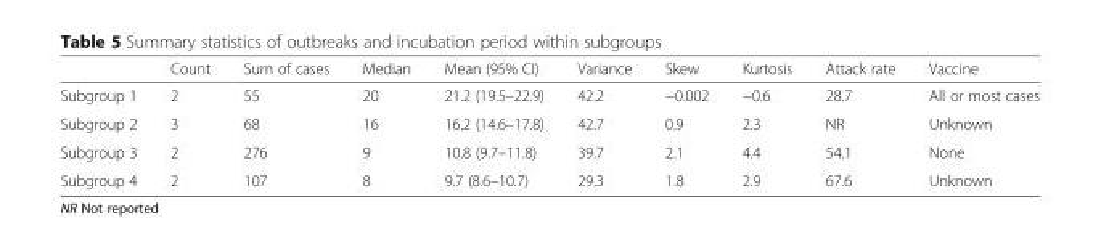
<table><thead><tr><td></td><td>Count</td><td>Sum of cases</td><td>Median</td><td>Mean (95% CI)</td><td>Variance</td><td>Skew</td><td>Kurtosis</td><td>Attack rate</td><td>Vaccine</td></tr></thead><tbody><tr><td>Subgroup 1</td><td>2</td><td>55</td><td>20</td><td>21.2 (19.5–22.9)</td><td>42.2</td><td>−0.002</td><td>−0.6</td><td>28.7</td><td>All or most cases</td></tr><tr><td>Subgroup 2</td><td>3</td><td>68</td><td>16</td><td>16.2 (14.6–17.8)</td><td>42.7</td><td>0.9</td><td>2.3</td><td>NR</td><td>Unknown</td></tr><tr><td>Subgroup 3</td><td>2</td><td>276</td><td>9</td><td>10.8 (9.7–11.8)</td><td>39.7</td><td>2.1</td><td>4.4</td><td>54.1</td><td>None</td></tr><tr><td>Subgroup 4</td><td>2</td><td>107</td><td>8</td><td>9.7 (8.6–10.7)</td><td>29.3</td><td>1.8</td><td>2.9</td><td>67.6</td><td>Unknown</td></tr></tbody></table>